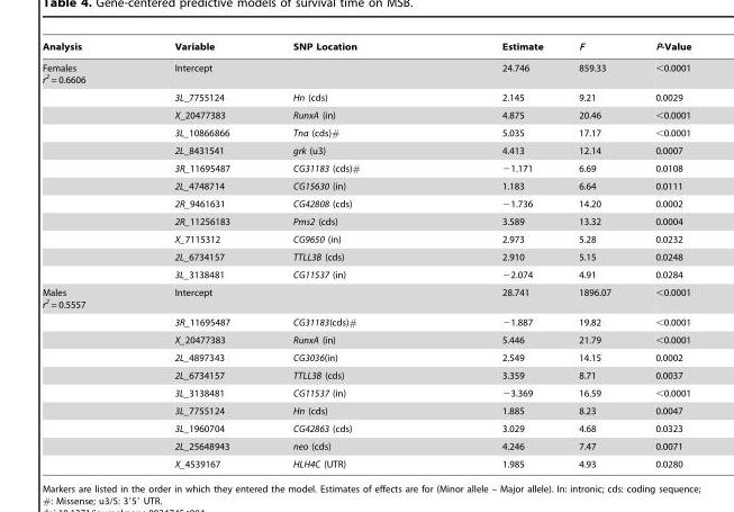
<table><thead><tr><td>Analysis</td><td>Variable</td><td>SNP Location</td><td>Estimate</td><td>F</td><td>P-Value</td></tr></thead><tbody><tr><td rowspan="12">Females r<sup>2</sup> = 0.6606</td><td>Intercept</td><td></td><td>24.746</td><td>859.33</td><td>&lt;0.0001</td></tr><tr><td>3L_7755124</td><td>Hn (cds)</td><td>2.145</td><td>9.21</td><td>0.0029</td></tr><tr><td>X_20477383</td><td>RunxA (in)</td><td>4.875</td><td>20.46</td><td>&lt;0.0001</td></tr><tr><td>3L_10866866</td><td>Tna (cds)#</td><td>5.035</td><td>17.17</td><td>&lt;0.0001</td></tr><tr><td>2L_8431541</td><td>grk (u3)</td><td>4.413</td><td>12.14</td><td>0.0007</td></tr><tr><td>3R_11695487</td><td>CG31183 (cds)#</td><td>−1.171</td><td>6.69</td><td>0.0108</td></tr><tr><td>2L_4748714</td><td>CG15630 (in)</td><td>1.183</td><td>6.64</td><td>0.0111</td></tr><tr><td>2R_9461631</td><td>CG42808 (cds)</td><td>−1.736</td><td>14.20</td><td>0.0002</td></tr><tr><td>2R_11256183</td><td>Pms2 (cds)</td><td>3.589</td><td>13.32</td><td>0.0004</td></tr><tr><td>X_7115312</td><td>CG9650 (in)</td><td>2.973</td><td>5.28</td><td>0.0232</td></tr><tr><td>2L_6734157</td><td>TTLL3B (cds)</td><td>2.910</td><td>5.15</td><td>0.0248</td></tr><tr><td>3L_3138481</td><td>CG11537 (in)</td><td>−2.074</td><td>4.91</td><td>0.0284</td></tr><tr><td rowspan="10">Males r<sup>2</sup> = 0.5557</td><td>Intercept</td><td></td><td>28.741</td><td>1896.07</td><td>&lt;0.0001</td></tr><tr><td>3R_11695487</td><td>CG31183(cds)#</td><td>−1.887</td><td>19.82</td><td>&lt;0.0001</td></tr><tr><td>X_20477383</td><td>RunxA (in)</td><td>5.446</td><td>21.79</td><td>&lt;0.0001</td></tr><tr><td>2L_4897343</td><td>CG3036(in)</td><td>2.549</td><td>14.15</td><td>0.0002</td></tr><tr><td>2L_6734157</td><td>TTLL3B (cds)</td><td>3.359</td><td>8.71</td><td>0.0037</td></tr><tr><td>3L_3138481</td><td>CG11537 (in)</td><td>−3.369</td><td>16.59</td><td>&lt;0.0001</td></tr><tr><td>3L_7755124</td><td>Hn (cds)</td><td>1.885</td><td>8.23</td><td>0.0047</td></tr><tr><td>3L_1960704</td><td>CG42863 (cds)</td><td>3.029</td><td>4.68</td><td>0.0323</td></tr><tr><td>2L_25648943</td><td>neo (cds)</td><td>4.246</td><td>7.47</td><td>0.0071</td></tr><tr><td>X_4539167</td><td>HLH4C (UTR)</td><td>1.985</td><td>4.93</td><td>0.0280</td></tr></tbody></table>